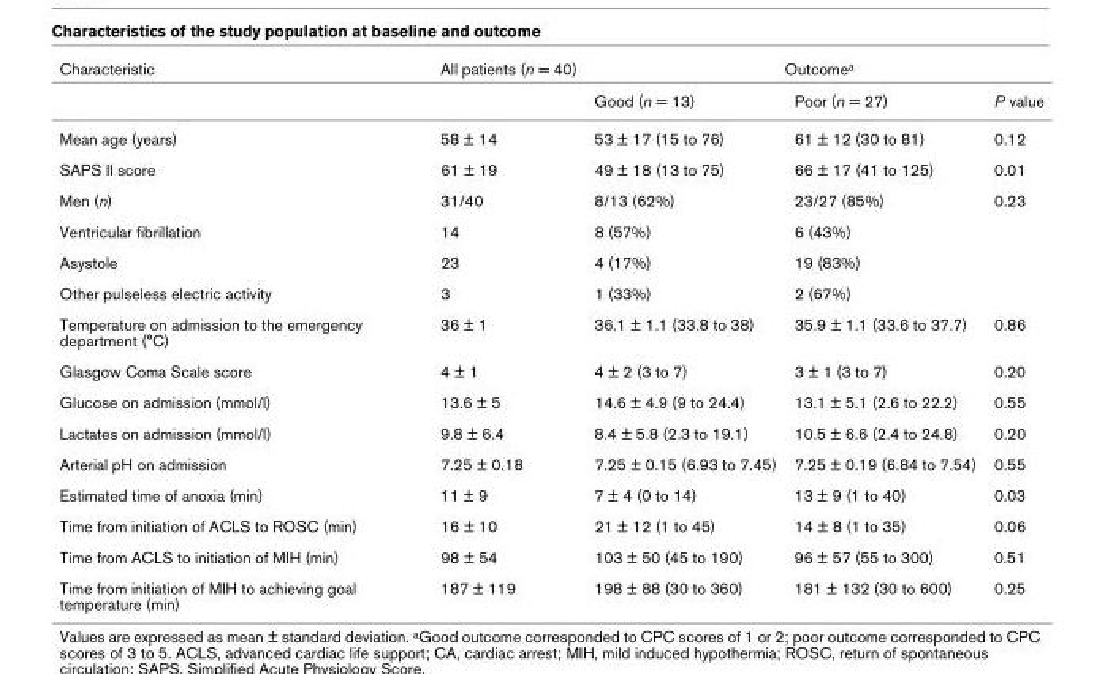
<table><thead><tr><td rowspan="2">Characteristic</td><td rowspan="2">All patients (n = 40)</td><td colspan="3">Outcome<sup>a</sup></td></tr><tr><td>Good (n = 13)</td><td>Poor (n = 27)</td><td>P value</td></tr></thead><tbody><tr><td>Mean age (years)</td><td>58 ± 14</td><td>53 ± 17 (15 to 76)</td><td>61 ± 12 (30 to 81)</td><td>0.12</td></tr><tr><td>SAPS II score</td><td>61 ± 19</td><td>49 ± 18 (13 to 75)</td><td>66 ± 17 (41 to 125)</td><td>0.01</td></tr><tr><td>Men (n)</td><td>31/40</td><td>8/13 (62%)</td><td>23/27 (85%)</td><td>0.23</td></tr><tr><td>Ventricular fibrillation</td><td>14</td><td>8 (57%)</td><td>6 (43%)</td><td></td></tr><tr><td>Asystole</td><td>23</td><td>4 (17%)</td><td>19 (83%)</td><td></td></tr><tr><td>Other pulseless electric activity</td><td>3</td><td>1 (33%)</td><td>2 (67%)</td><td></td></tr><tr><td>Temperature on admission to the emergency department (°C)</td><td>36 ± 1</td><td>36.1 ± 1.1 (33.8 to 38)</td><td>35.9 ± 1.1 (33.6 to 37.7)</td><td>0.86</td></tr><tr><td>Glasgow Coma Scale score</td><td>4 ± 1</td><td>4 ± 2 (3 to 7)</td><td>3 ± 1 (3 to 7)</td><td>0.20</td></tr><tr><td>Glucose on admission (mmol/l)</td><td>13.6 ± 5</td><td>14.6 ± 4.9 (9 to 24.4)</td><td>13.1 ± 5.1 (2.6 to 22.2)</td><td>0.55</td></tr><tr><td>Lactates on admission (mmol/l)</td><td>9.8 ± 6.4</td><td>8.4 ± 5.8 (2.3 to 19.1)</td><td>10.5 ± 6.6 (2.4 to 24.8)</td><td>0.20</td></tr><tr><td>Arterial pH on admission</td><td>7.25 ± 0.18</td><td>7.25 ± 0.15 (6.93 to 7.45)</td><td>7.25 ± 0.19 (6.84 to 7.54)</td><td>0.55</td></tr><tr><td>Estimated time of anoxia (min)</td><td>11 ± 9</td><td>7 ± 4 (0 to 14)</td><td>13 ± 9 (1 to 40)</td><td>0.03</td></tr><tr><td>Time from initiation of ACLS to ROSC (min)</td><td>16 ± 10</td><td>21 ± 12 (1 to 45)</td><td>14 ± 8 (1 to 35)</td><td>0.06</td></tr><tr><td>Time from ACLS to initiation of MIH (min)</td><td>98 ± 54</td><td>103 ± 50 (45 to 190)</td><td>96 ± 57 (55 to 300)</td><td>0.51</td></tr><tr><td>Time from initiation of MIH to achieving goal temperature (min)</td><td>187 ± 119</td><td>198 ± 88 (30 to 360)</td><td>181 ± 132 (30 to 600)</td><td>0.25</td></tr></tbody></table>